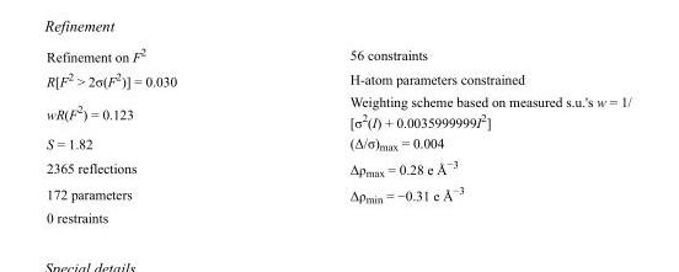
<table><tbody><tr><td>Refinement on F<sup>2</sup></td><td>56 constraints</td></tr><tr><td>R[F<sup>2</sup> &gt; 2σ(F<sup>2</sup>)] = 0.030</td><td>H-atom parameters constrained</td></tr><tr><td>wR(F<sup>2</sup>) = 0.123</td><td>Weighting scheme based on measured s.u.&#x27;s w = 1/ [σ<sup>2</sup>(I) + 0.0035999999I<sup>2</sup>]</td></tr><tr><td>S = 1.82</td><td>(Δ/σ)<sub>max</sub> = 0.004</td></tr><tr><td>2365 reflections</td><td>Δρ<sub>max</sub> = 0.28 e Å<sup>−3</sup></td></tr><tr><td>172 parameters</td><td>Δρ<sub>min</sub> = −0.31 e Å<sup>−3</sup></td></tr><tr><td>0 restraints</td><td></td></tr></tbody></table>